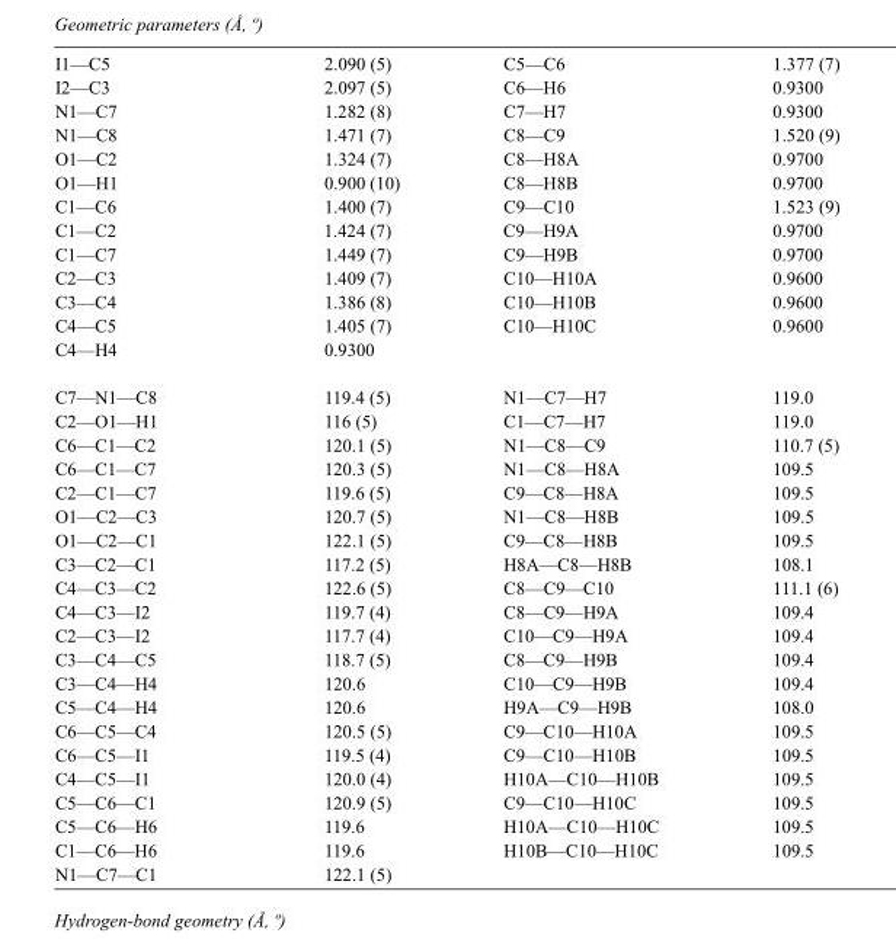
<table><tbody><tr><td>I1—C5</td><td>2.090 (5)</td><td>C5—C6</td><td>1.377 (7)</td></tr><tr><td>I2—C3</td><td>2.097 (5)</td><td>C6—H6</td><td>0.9300</td></tr><tr><td>N1—C7</td><td>1.282 (8)</td><td>C7—H7</td><td>0.9300</td></tr><tr><td>N1—C8</td><td>1.471 (7)</td><td>C8—C9</td><td>1.520 (9)</td></tr><tr><td>O1—C2</td><td>1.324 (7)</td><td>C8—H8A</td><td>0.9700</td></tr><tr><td>O1—H1</td><td>0.900 (10)</td><td>C8—H8B</td><td>0.9700</td></tr><tr><td>C1—C6</td><td>1.400 (7)</td><td>C9—C10</td><td>1.523 (9)</td></tr><tr><td>C1—C2</td><td>1.424 (7)</td><td>C9—H9A</td><td>0.9700</td></tr><tr><td>C1—C7</td><td>1.449 (7)</td><td>C9—H9B</td><td>0.9700</td></tr><tr><td>C2—C3</td><td>1.409 (7)</td><td>C10—H10A</td><td>0.9600</td></tr><tr><td>C3—C4</td><td>1.386 (8)</td><td>C10—H10B</td><td>0.9600</td></tr><tr><td>C4—C5</td><td>1.405 (7)</td><td>C10—H10C</td><td>0.9600</td></tr><tr><td>C4—H4</td><td>0.9300</td><td></td><td></td></tr><tr><td>C7—N1—C8</td><td>119.4 (5)</td><td>N1—C7—H7</td><td>119.0</td></tr><tr><td>C2—O1—H1</td><td>116 (5)</td><td>C1—C7—H7</td><td>119.0</td></tr><tr><td>C6—C1—C2</td><td>120.1 (5)</td><td>N1—C8—C9</td><td>110.7 (5)</td></tr><tr><td>C6—C1—C7</td><td>120.3 (5)</td><td>N1—C8—H8A</td><td>109.5</td></tr><tr><td>C2—C1—C7</td><td>119.6 (5)</td><td>C9—C8—H8A</td><td>109.5</td></tr><tr><td>O1—C2—C3</td><td>120.7 (5)</td><td>N1—C8—H8B</td><td>109.5</td></tr><tr><td>O1—C2—C1</td><td>122.1 (5)</td><td>C9—C8—H8B</td><td>109.5</td></tr><tr><td>C3—C2—C1</td><td>117.2 (5)</td><td>H8A—C8—H8B</td><td>108.1</td></tr><tr><td>C4—C3—C2</td><td>122.6 (5)</td><td>C8—C9—C10</td><td>111.1 (6)</td></tr><tr><td>C4—C3—I2</td><td>119.7 (4)</td><td>C8—C9—H9A</td><td>109.4</td></tr><tr><td>C2—C3—I2</td><td>117.7 (4)</td><td>C10—C9—H9A</td><td>109.4</td></tr><tr><td>C3—C4—C5</td><td>118.7 (5)</td><td>C8—C9—H9B</td><td>109.4</td></tr><tr><td>C3—C4—H4</td><td>120.6</td><td>C10—C9—H9B</td><td>109.4</td></tr><tr><td>C5—C4—H4</td><td>120.6</td><td>H9A—C9—H9B</td><td>108.0</td></tr><tr><td>C6—C5—C4</td><td>120.5 (5)</td><td>C9—C10—H10A</td><td>109.5</td></tr><tr><td>C6—C5—I1</td><td>119.5 (4)</td><td>C9—C10—H10B</td><td>109.5</td></tr><tr><td>C4—C5—I1</td><td>120.0 (4)</td><td>H10A—C10—H10B</td><td>109.5</td></tr><tr><td>C5—C6—C1</td><td>120.9 (5)</td><td>C9—C10—H10C</td><td>109.5</td></tr><tr><td>C5—C6—H6</td><td>119.6</td><td>H10A—C10—H10C</td><td>109.5</td></tr><tr><td>C1—C6—H6</td><td>119.6</td><td>H10B—C10—H10C</td><td>109.5</td></tr><tr><td>N1—C7—C1</td><td>122.1 (5)</td><td></td><td></td></tr></tbody></table>